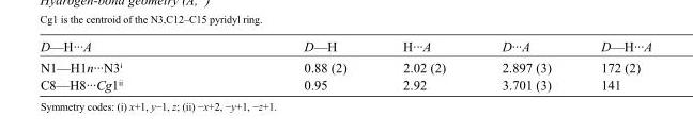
<table><tbody><tr><td>D—H···A</td><td>D—H</td><td>H···A</td><td>D···A</td><td>D—H···A</td></tr><tr><td>N1—H1n···N3<sup>i</sup></td><td>0.88 (2)</td><td>2.02 (2)</td><td>2.897 (3)</td><td>172 (2)</td></tr><tr><td>C8—H8···Cg1<sup>ii</sup></td><td>0.95</td><td>2.92</td><td>3.701 (3)</td><td>141</td></tr></tbody></table>